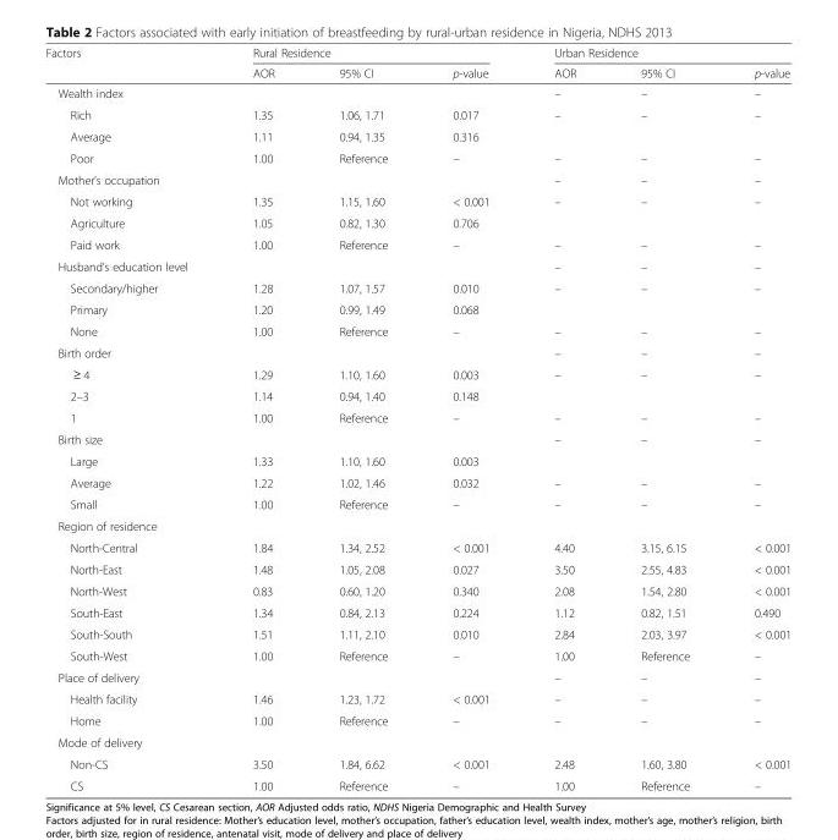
<table><thead><tr><td rowspan="2">Factors</td><td colspan="3">Rural Residence</td><td colspan="3">Urban Residence</td></tr><tr><td>AOR</td><td>95% CI</td><td>p-value</td><td>AOR</td><td>95% CI</td><td>p-value</td></tr></thead><tbody><tr><td>Wealth index</td><td></td><td></td><td></td><td>–</td><td>–</td><td>–</td></tr><tr><td>Rich</td><td>1.35</td><td>1.06, 1.71</td><td>0.017</td><td>–</td><td>–</td><td>–</td></tr><tr><td>Average</td><td>1.11</td><td>0.94, 1.35</td><td>0.316</td><td></td><td></td><td></td></tr><tr><td>Poor</td><td>1.00</td><td>Reference</td><td>–</td><td>–</td><td>–</td><td>–</td></tr><tr><td>Mother’s occupation</td><td></td><td></td><td></td><td>–</td><td>–</td><td>–</td></tr><tr><td>Not working</td><td>1.35</td><td>1.15, 1.60</td><td>&lt; 0.001</td><td>–</td><td>–</td><td>–</td></tr><tr><td>Agriculture</td><td>1.05</td><td>0.82, 1.30</td><td>0.706</td><td></td><td></td><td></td></tr><tr><td>Paid work</td><td>1.00</td><td>Reference</td><td>–</td><td>–</td><td>–</td><td>–</td></tr><tr><td>Husband’s education level</td><td></td><td></td><td></td><td>–</td><td>–</td><td>–</td></tr><tr><td>Secondary/higher</td><td>1.28</td><td>1.07, 1.57</td><td>0.010</td><td>–</td><td>–</td><td>–</td></tr><tr><td>Primary</td><td>1.20</td><td>0.99, 1.49</td><td>0.068</td><td></td><td></td><td></td></tr><tr><td>None</td><td>1.00</td><td>Reference</td><td>–</td><td>–</td><td>–</td><td>–</td></tr><tr><td>Birth order</td><td></td><td></td><td></td><td>–</td><td>–</td><td>–</td></tr><tr><td>≥ 4</td><td>1.29</td><td>1.10, 1.60</td><td>0.003</td><td>–</td><td>–</td><td>–</td></tr><tr><td>2–3</td><td>1.14</td><td>0.94, 1.40</td><td>0.148</td><td></td><td></td><td></td></tr><tr><td>1</td><td>1.00</td><td>Reference</td><td>–</td><td>–</td><td>–</td><td>–</td></tr><tr><td>Birth size</td><td></td><td></td><td></td><td>–</td><td>–</td><td>–</td></tr><tr><td>Large</td><td>1.33</td><td>1.10, 1.60</td><td>0.003</td><td></td><td></td><td></td></tr><tr><td>Average</td><td>1.22</td><td>1.02, 1.46</td><td>0.032</td><td>–</td><td>–</td><td>–</td></tr><tr><td>Small</td><td>1.00</td><td>Reference</td><td>–</td><td>–</td><td>–</td><td>–</td></tr><tr><td colspan="7">Region of residence</td></tr><tr><td>North-Central</td><td>1.84</td><td>1.34, 2.52</td><td>&lt; 0.001</td><td>4.40</td><td>3.15, 6.15</td><td>&lt; 0.001</td></tr><tr><td>North-East</td><td>1.48</td><td>1.05, 2.08</td><td>0.027</td><td>3.50</td><td>2.55, 4.83</td><td>&lt; 0.001</td></tr><tr><td>North-West</td><td>0.83</td><td>0.60, 1.20</td><td>0.340</td><td>2.08</td><td>1.54, 2.80</td><td>&lt; 0.001</td></tr><tr><td>South-East</td><td>1.34</td><td>0.84, 2.13</td><td>0.224</td><td>1.12</td><td>0.82, 1.51</td><td>0.490</td></tr><tr><td>South-South</td><td>1.51</td><td>1.11, 2.10</td><td>0.010</td><td>2.84</td><td>2.03, 3.97</td><td>&lt; 0.001</td></tr><tr><td>South-West</td><td>1.00</td><td>Reference</td><td>–</td><td>1.00</td><td>Reference</td><td>–</td></tr><tr><td>Place of delivery</td><td></td><td></td><td></td><td>–</td><td>–</td><td>–</td></tr><tr><td>Health facility</td><td>1.46</td><td>1.23, 1.72</td><td>&lt; 0.001</td><td>–</td><td>–</td><td>–</td></tr><tr><td>Home</td><td>1.00</td><td>Reference</td><td>–</td><td>–</td><td>–</td><td>–</td></tr><tr><td colspan="7">Mode of delivery</td></tr><tr><td>Non-CS</td><td>3.50</td><td>1.84, 6.62</td><td>&lt; 0.001</td><td>2.48</td><td>1.60, 3.80</td><td>&lt; 0.001</td></tr><tr><td>CS</td><td>1.00</td><td>Reference</td><td>–</td><td>1.00</td><td>Reference</td><td>–</td></tr></tbody></table>